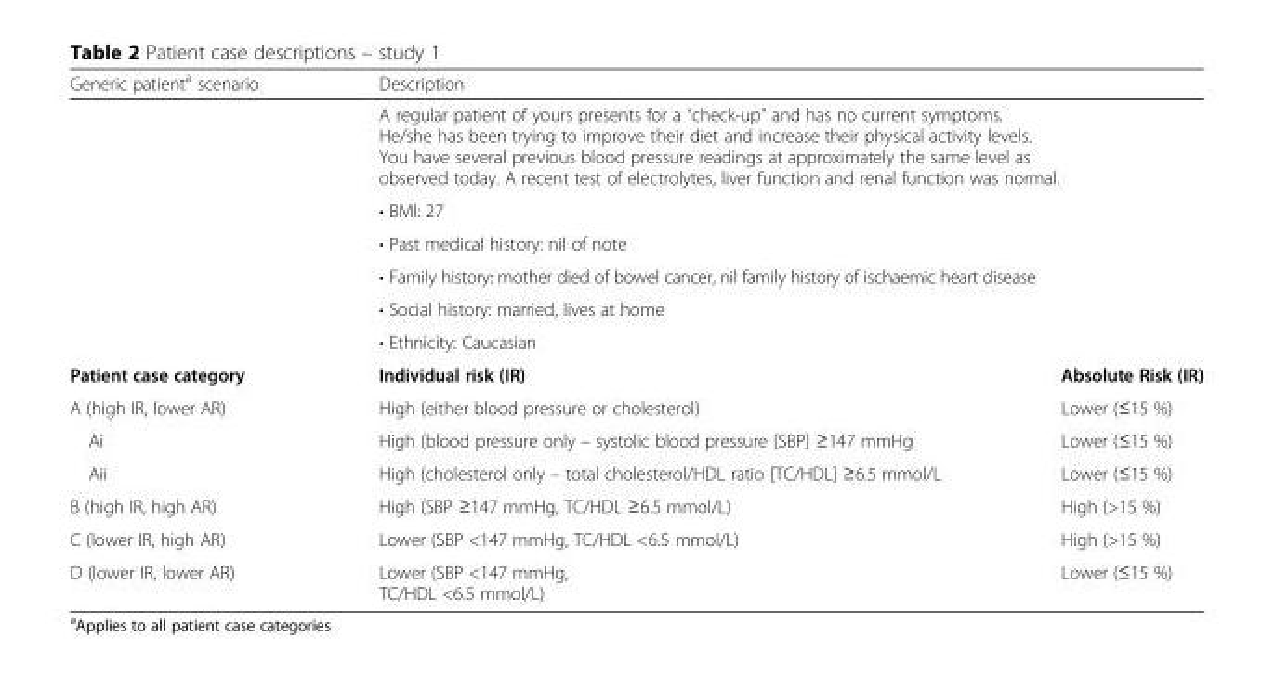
<table><thead><tr><td>Generic patient<sup>a</sup> scenario</td><td colspan="2">Description</td></tr></thead><tbody><tr><td rowspan="6"></td><td colspan="2">A regular patient of yours presents for a “check-up” and has no current symptoms. He/she has been trying to improve their diet and increase their physical activity levels. You have several previous blood pressure readings at approximately the same level as observed today. A recent test of electrolytes, liver function and renal function was normal.</td></tr><tr><td colspan="2">• BMI: 27</td></tr><tr><td colspan="2">• Past medical history: nil of note</td></tr><tr><td colspan="2">• Family history: mother died of bowel cancer, nil family history of ischaemic heart disease</td></tr><tr><td colspan="2">• Social history: married, lives at home</td></tr><tr><td colspan="2">• Ethnicity: Caucasian</td></tr><tr><td>Patient case category</td><td>Individual risk (IR)</td><td>Absolute Risk (IR)</td></tr><tr><td>A (high IR, lower AR)</td><td>High (either blood pressure or cholesterol)</td><td>Lower (≤15 %)</td></tr><tr><td>Ai</td><td>High (blood pressure only – systolic blood pressure [SBP] ≥147 mmHg</td><td>Lower (≤15 %)</td></tr><tr><td>Aii</td><td>High (cholesterol only – total cholesterol/HDL ratio [TC/HDL] ≥6.5 mmol/L</td><td>Lower (≤15 %)</td></tr><tr><td>B (high IR, high AR)</td><td>High (SBP ≥147 mmHg, TC/HDL ≥6.5 mmol/L)</td><td>High (&gt;15 %)</td></tr><tr><td>C (lower IR, high AR)</td><td>Lower (SBP &lt;147 mmHg, TC/HDL &lt;6.5 mmol/L)</td><td>High (&gt;15 %)</td></tr><tr><td>D (lower IR, lower AR)</td><td>Lower (SBP &lt;147 mmHg, TC/HDL &lt;6.5 mmol/L)</td><td>Lower (≤15 %)</td></tr></tbody></table>